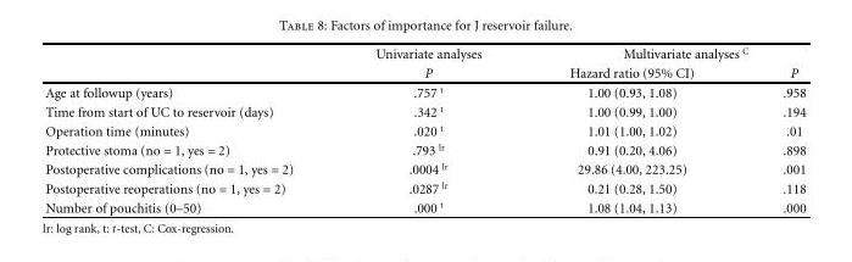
<table><thead><tr><td rowspan="2"></td><td rowspan="2">Univariate analyses P</td><td colspan="2">Multivariate analyses <sup>C</sup></td></tr><tr><td>Hazard ratio (95% CI)</td><td>P</td></tr></thead><tbody><tr><td>Age at followup (years)</td><td>.757 <sup>t</sup></td><td>1.00 (0.93, 1.08)</td><td>.958</td></tr><tr><td>Time from start of UC to reservoir (days)</td><td>.342 <sup>t</sup></td><td>1.00 (0.99, 1.00)</td><td>.194</td></tr><tr><td>Operation time (minutes)</td><td>.020 <sup>t</sup></td><td>1.01 (1.00, 1.02)</td><td>.01</td></tr><tr><td>Protective stoma (no = 1, yes = 2)</td><td>.793 <sup>lr</sup></td><td>0.91 (0.20, 4.06)</td><td>.898</td></tr><tr><td>Postoperative complications (no = 1, yes = 2)</td><td>.0004 <sup>lr</sup></td><td>29.86 (4.00, 223.25)</td><td>.001</td></tr><tr><td>Postoperative reoperations (no = 1, yes = 2)</td><td>.0287 <sup>lr</sup></td><td>0.21 (0.28, 1.50)</td><td>.118</td></tr><tr><td>Number of pouchitis (0–50)</td><td>.000 <sup>t</sup></td><td>1.08 (1.04, 1.13)</td><td>.000</td></tr></tbody></table>